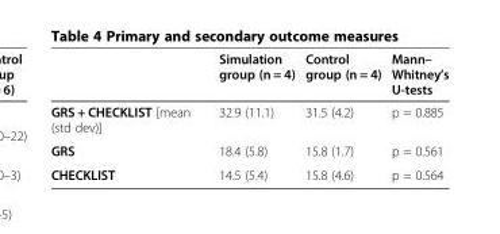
<table><thead><tr><td></td><td>Simulation group (n = 4)</td><td>Control group (n = 4)</td><td>Mann– Whitney’s U-tests</td></tr></thead><tbody><tr><td>GRS + CHECKLIST [mean (std dev)]</td><td>32.9 (11.1)</td><td>31.5 (4.2)</td><td>p = 0.885</td></tr><tr><td>GRS</td><td>18.4 (5.8)</td><td>15.8 (1.7)</td><td>p = 0.561</td></tr><tr><td>CHECKLIST</td><td>14.5 (5.4)</td><td>15.8 (4.6)</td><td>p = 0.564</td></tr></tbody></table>